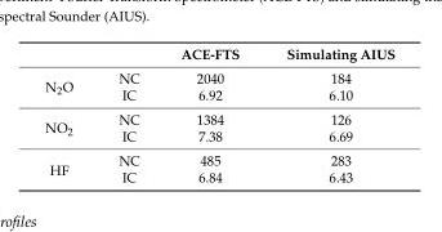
<table><thead><tr><td></td><td></td><td>ACE-FTS</td><td>Simulating AIUS</td></tr></thead><tbody><tr><td rowspan="2">N<sub>2</sub>O</td><td>NC</td><td>2040</td><td>184</td></tr><tr><td>IC</td><td>6.92</td><td>6.10</td></tr><tr><td rowspan="2">NO<sub>2</sub></td><td>NC</td><td>1384</td><td>126</td></tr><tr><td>IC</td><td>7.38</td><td>6.69</td></tr><tr><td rowspan="2">HF</td><td>NC</td><td>485</td><td>283</td></tr><tr><td>IC</td><td>6.84</td><td>6.43</td></tr></tbody></table>